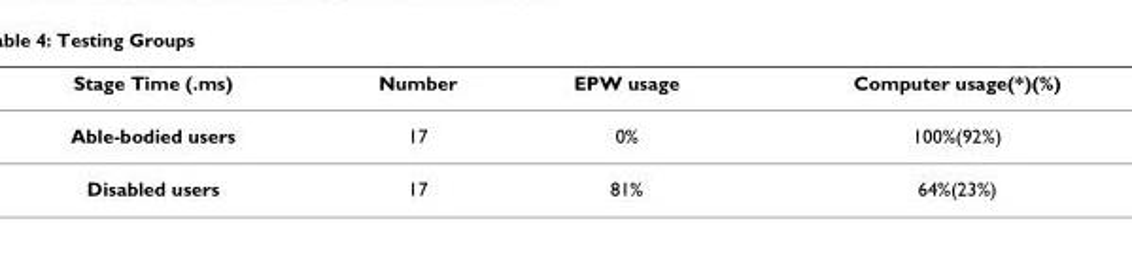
<table><thead><tr><td>Stage Time (.ms)</td><td>Number</td><td>EPW usage</td><td>Computer usage(*)(%)</td></tr></thead><tbody><tr><td>Able-bodied users</td><td>17</td><td>0%</td><td>100%(92%)</td></tr><tr><td>Disabled users</td><td>17</td><td>81%</td><td>64%(23%)</td></tr></tbody></table>